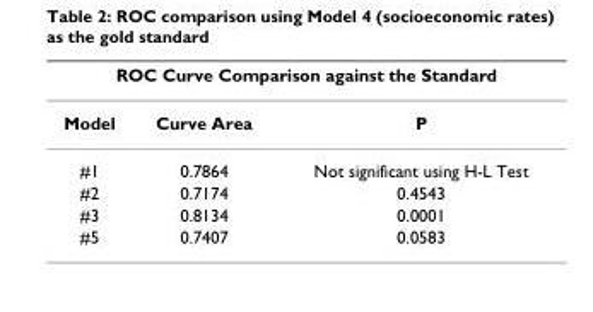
<table><thead><tr><td colspan="3">ROC Curve Comparison against the Standard</td></tr><tr><td>Model</td><td>Curve Area</td><td>P</td></tr></thead><tbody><tr><td>#1</td><td>0.7864</td><td>Not significant using H-L Test</td></tr><tr><td>#2</td><td>0.7174</td><td>0.4543</td></tr><tr><td>#3</td><td>0.8134</td><td>0.0001</td></tr><tr><td>#5</td><td>0.7407</td><td>0.0583</td></tr></tbody></table>